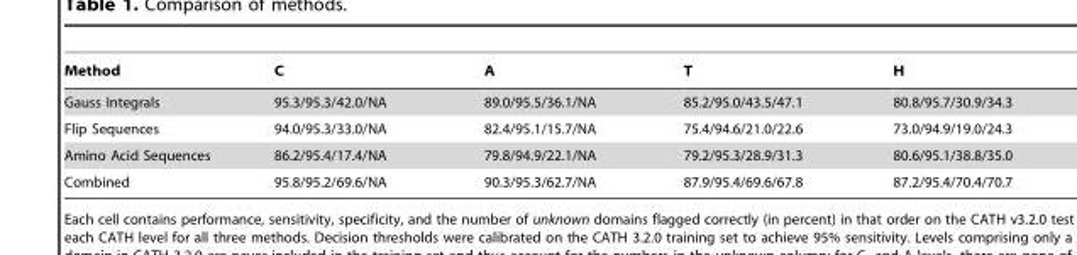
<table><thead><tr><td>Method</td><td>C</td><td>A</td><td>T</td><td>H</td></tr></thead><tbody><tr><td>Gauss Integrals</td><td>95.3/95.3/42.0/NA</td><td>89.0/95.5/36.1/NA</td><td>85.2/95.0/43.5/47.1</td><td>80.8/95.7/30.9/34.3</td></tr><tr><td>Flip Sequences</td><td>94.0/95.3/33.0/NA</td><td>82.4/95.1/15.7/NA</td><td>75.4/94.6/21.0/22.6</td><td>73.0/94.9/19.0/24.3</td></tr><tr><td>Amino Acid Sequences</td><td>86.2/95.4/17.4/NA</td><td>79.8/94.9/22.1/NA</td><td>79.2/95.3/28.9/31.3</td><td>80.6/95.1/38.8/35.0</td></tr><tr><td>Combined</td><td>95.8/95.2/69.6/NA</td><td>90.3/95.3/62.7/NA</td><td>87.9/95.4/69.6/67.8</td><td>87.2/95.4/70.4/70.7</td></tr></tbody></table>